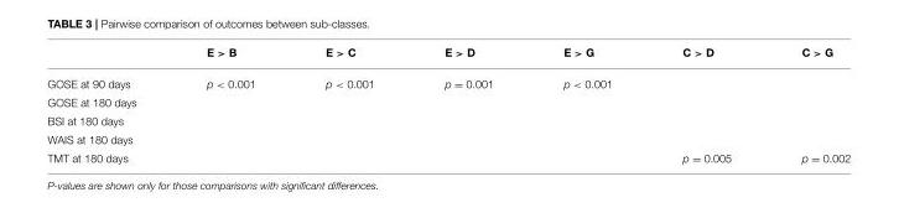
<table><thead><tr><td></td><td>E &gt; B</td><td>E &gt; C</td><td>E &gt; D</td><td>E &gt; G</td><td>C &gt; D</td><td>C &gt; G</td></tr></thead><tbody><tr><td>GOSE at 90 days</td><td>p &lt; 0.001</td><td>p &lt; 0.001</td><td>p = 0.001</td><td>p &lt; 0.001</td><td></td><td></td></tr><tr><td colspan="7">GOSE at 180 days</td></tr><tr><td colspan="7">BSI at 180 days</td></tr><tr><td colspan="7">WAIS at 180 days</td></tr><tr><td>TMT at 180 days</td><td></td><td></td><td></td><td></td><td>p = 0.005</td><td>p = 0.002</td></tr></tbody></table>